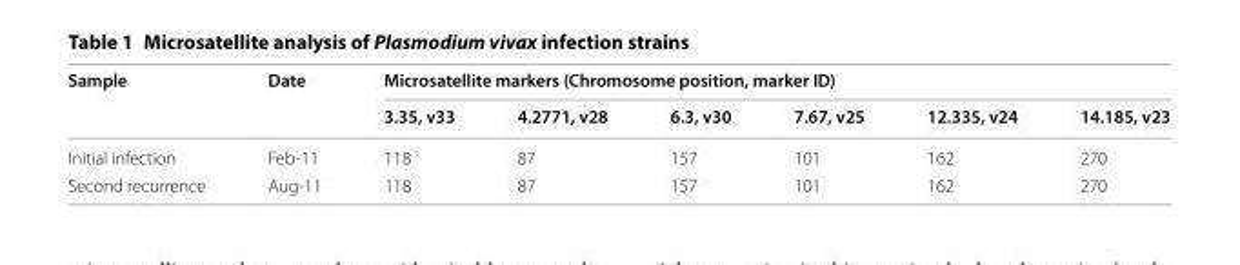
<table><thead><tr><td rowspan="2">Sample</td><td rowspan="2">Date</td><td colspan="6">Microsatellite markers (Chromosome position, marker ID)</td></tr><tr><td>3.35, v33</td><td>4.2771, v28</td><td>6.3, v30</td><td>7.67, v25</td><td>12.335, v24</td><td>14.185, v23</td></tr></thead><tbody><tr><td>Initial infection</td><td>Feb-11</td><td>118</td><td>87</td><td>157</td><td>101</td><td>162</td><td>270</td></tr><tr><td>Second recurrence</td><td>Aug-11</td><td>118</td><td>87</td><td>157</td><td>101</td><td>162</td><td>270</td></tr></tbody></table>